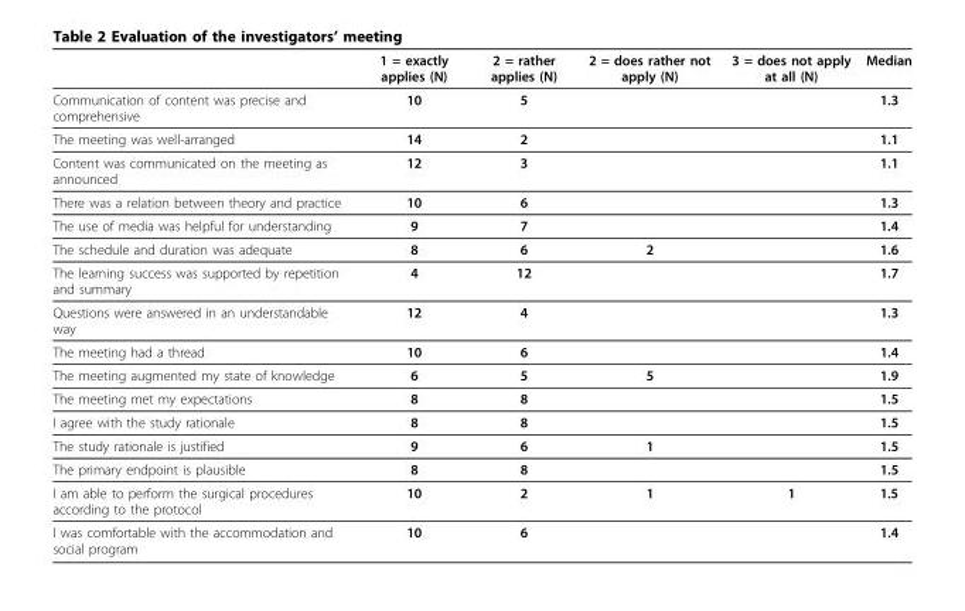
<table><thead><tr><td></td><td>1 = exactly applies (N)</td><td>2 = rather applies (N)</td><td>2 = does rather not apply (N)</td><td>3 = does not apply at all (N)</td><td>Median</td></tr></thead><tbody><tr><td>Communication of content was precise and comprehensive</td><td>10</td><td>5</td><td></td><td></td><td>1.3</td></tr><tr><td>The meeting was well-arranged</td><td>14</td><td>2</td><td></td><td></td><td>1.1</td></tr><tr><td>Content was communicated on the meeting as announced</td><td>12</td><td>3</td><td></td><td></td><td>1.1</td></tr><tr><td>There was a relation between theory and practice</td><td>10</td><td>6</td><td></td><td></td><td>1.3</td></tr><tr><td>The use of media was helpful for understanding</td><td>9</td><td>7</td><td></td><td></td><td>1.4</td></tr><tr><td>The schedule and duration was adequate</td><td>8</td><td>6</td><td>2</td><td></td><td>1.6</td></tr><tr><td>The learning success was supported by repetition and summary</td><td>4</td><td>12</td><td></td><td></td><td>1.7</td></tr><tr><td>Questions were answered in an understandable way</td><td>12</td><td>4</td><td></td><td></td><td>1.3</td></tr><tr><td>The meeting had a thread</td><td>10</td><td>6</td><td></td><td></td><td>1.4</td></tr><tr><td>The meeting augmented my state of knowledge</td><td>6</td><td>5</td><td>5</td><td></td><td>1.9</td></tr><tr><td>The meeting met my expectations</td><td>8</td><td>8</td><td></td><td></td><td>1.5</td></tr><tr><td>I agree with the study rationale</td><td>8</td><td>8</td><td></td><td></td><td>1.5</td></tr><tr><td>The study rationale is justified</td><td>9</td><td>6</td><td>1</td><td></td><td>1.5</td></tr><tr><td>The primary endpoint is plausible</td><td>8</td><td>8</td><td></td><td></td><td>1.5</td></tr><tr><td>I am able to perform the surgical procedures according to the protocol</td><td>10</td><td>2</td><td>1</td><td>1</td><td>1.5</td></tr><tr><td>I was comfortable with the accommodation and social program</td><td>10</td><td>6</td><td></td><td></td><td>1.4</td></tr></tbody></table>